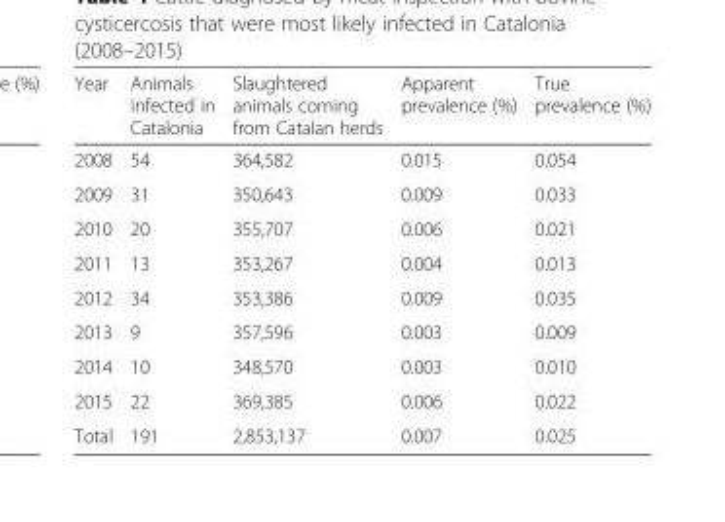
<table><thead><tr><td>Year</td><td>Animals infected in Catalonia</td><td>Slaughtered animals coming from Catalan herds</td><td>Apparent prevalence (%)</td><td>True prevalence (%)</td></tr></thead><tbody><tr><td>2008</td><td>54</td><td>364,582</td><td>0.015</td><td>0.054</td></tr><tr><td>2009</td><td>31</td><td>350,643</td><td>0.009</td><td>0.033</td></tr><tr><td>2010</td><td>20</td><td>355,707</td><td>0.006</td><td>0.021</td></tr><tr><td>2011</td><td>13</td><td>353,267</td><td>0.004</td><td>0.013</td></tr><tr><td>2012</td><td>34</td><td>353,386</td><td>0.009</td><td>0.035</td></tr><tr><td>2013</td><td>9</td><td>357,596</td><td>0.003</td><td>0.009</td></tr><tr><td>2014</td><td>10</td><td>348,570</td><td>0.003</td><td>0.010</td></tr><tr><td>2015</td><td>22</td><td>369,385</td><td>0.006</td><td>0.022</td></tr><tr><td>Total</td><td>191</td><td>2,853,137</td><td>0.007</td><td>0.025</td></tr></tbody></table>